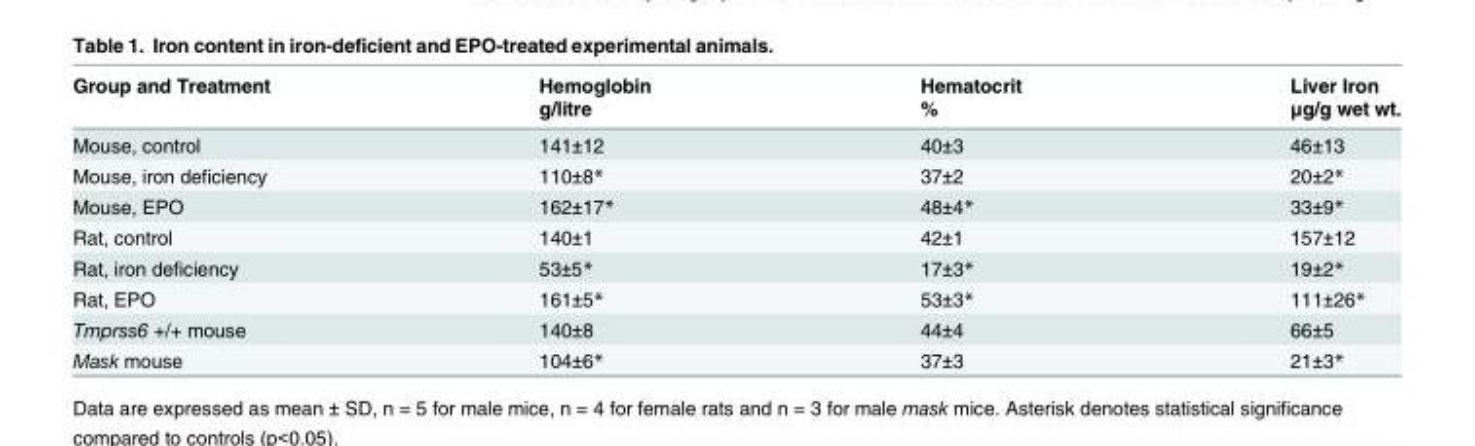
<table><thead><tr><td rowspan="2">Group and Treatment</td><td rowspan="2">Hemoglobin g/litre</td><td rowspan="2">Hematocrit %</td><td rowspan="2">Liver Iron μg/g wet wt.</td></tr><tr></tr></thead><tbody><tr><td>Mouse, control</td><td>141±12</td><td>40±3</td><td>46±13</td></tr><tr><td>Mouse, iron deficiency</td><td>110±8*</td><td>37±2</td><td>20±2*</td></tr><tr><td>Mouse, EPO</td><td>162±17*</td><td>48±4*</td><td>33±9*</td></tr><tr><td>Rat, control</td><td>140±1</td><td>42±1</td><td>157±12</td></tr><tr><td>Rat, iron deficiency</td><td>53±5*</td><td>17±3*</td><td>19±2*</td></tr><tr><td>Rat, EPO</td><td>161±5*</td><td>53±3*</td><td>111±26*</td></tr><tr><td>Tmprss6 +/+ mouse</td><td>140±8</td><td>44±4</td><td>66±5</td></tr><tr><td>Mask mouse</td><td>104±6*</td><td>37±3</td><td>21±3*</td></tr></tbody></table>